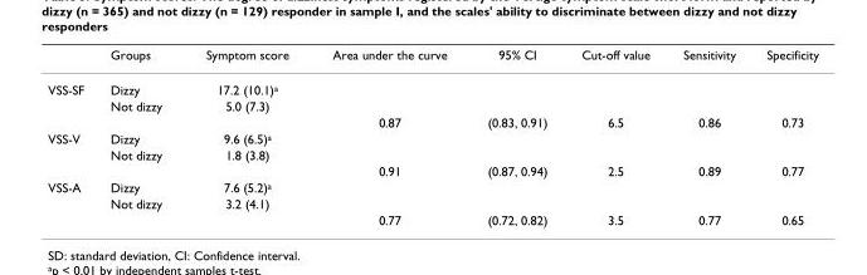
<table><thead><tr><td></td><td>Groups</td><td>Symptom score</td><td>Area under the curve</td><td>95% CI</td><td>Cut-off value</td><td>Sensitivity</td><td>Specificity</td></tr></thead><tbody><tr><td rowspan="3">VSS-SF</td><td>Dizzy</td><td>17.2 (10.1)<sup>a</sup></td><td></td><td></td><td></td><td></td><td></td></tr><tr><td>Not dizzy</td><td>5.0 (7.3)</td><td></td><td></td><td></td><td></td><td></td></tr><tr><td></td><td></td><td>0.87</td><td>(0.83, 0.91)</td><td>6.5</td><td>0.86</td><td>0.73</td></tr><tr><td rowspan="3">VSS-V</td><td>Dizzy</td><td>9.6 (6.5)<sup>a</sup></td><td></td><td></td><td></td><td></td><td></td></tr><tr><td>Not dizzy</td><td>1.8 (3.8)</td><td></td><td></td><td></td><td></td><td></td></tr><tr><td></td><td></td><td>0.91</td><td>(0.87, 0.94)</td><td>2.5</td><td>0.89</td><td>0.77</td></tr><tr><td rowspan="3">VSS-A</td><td>Dizzy</td><td>7.6 (5.2)<sup>a</sup></td><td></td><td></td><td></td><td></td><td></td></tr><tr><td>Not dizzy</td><td>3.2 (4.1)</td><td></td><td></td><td></td><td></td><td></td></tr><tr><td></td><td></td><td>0.77</td><td>(0.72, 0.82)</td><td>3.5</td><td>0.77</td><td>0.65</td></tr></tbody></table>